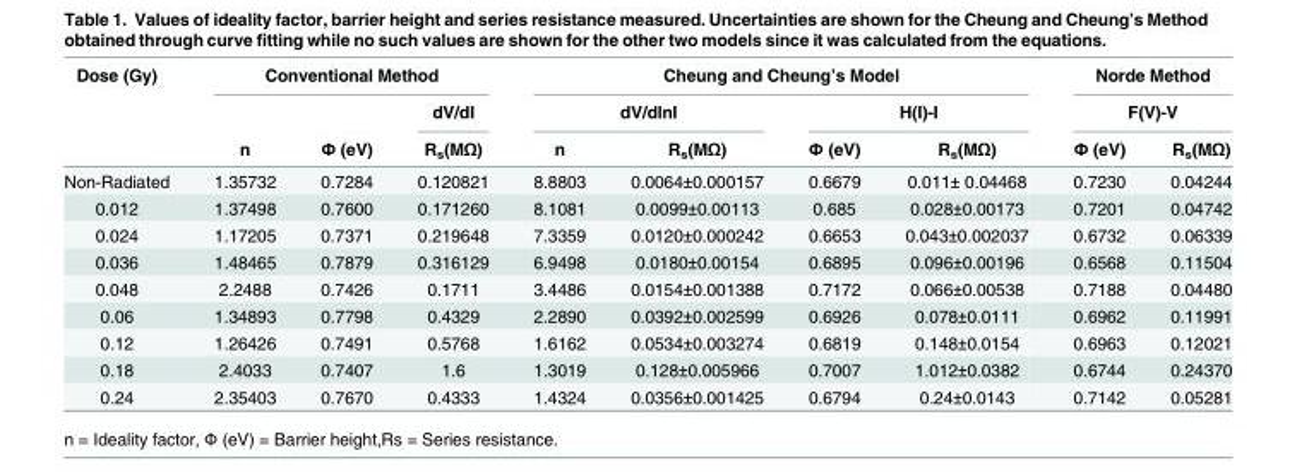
<table><thead><tr><td rowspan="3">Dose (Gy)</td><td colspan="3">Conventional Method</td><td colspan="4">Cheung and Cheung’s Model</td><td rowspan="2" colspan="2">Norde Method F(V)-V</td></tr><tr><td rowspan="2">n</td><td rowspan="2">Ф (eV)</td><td rowspan="2">dV/dI R<sub>s</sub>(MΩ)</td><td colspan="2">dV/dlnI</td><td colspan="2">H(I)-I</td></tr><tr><td>n</td><td>R<sub>s</sub>(MΩ)</td><td>Ф (eV)</td><td>R<sub>s</sub>(MΩ)</td><td>Ф (eV)</td><td>R<sub>s</sub>(MΩ)</td></tr></thead><tbody><tr><td>Non-Radiated</td><td>1.35732</td><td>0.7284</td><td>0.120821</td><td>8.8803</td><td>0.0064±0.000157</td><td>0.6679</td><td>0.011± 0.04468</td><td>0.7230</td><td>0.04244</td></tr><tr><td>0.012</td><td>1.37498</td><td>0.7600</td><td>0.171260</td><td>8.1081</td><td>0.0099±0.00113</td><td>0.685</td><td>0.028±0.00173</td><td>0.7201</td><td>0.04742</td></tr><tr><td>0.024</td><td>1.17205</td><td>0.7371</td><td>0.219648</td><td>7.3359</td><td>0.0120±0.000242</td><td>0.6653</td><td>0.043±0.002037</td><td>0.6732</td><td>0.06339</td></tr><tr><td>0.036</td><td>1.48465</td><td>0.7879</td><td>0.316129</td><td>6.9498</td><td>0.0180±0.00154</td><td>0.6895</td><td>0.096±0.00196</td><td>0.6568</td><td>0.11504</td></tr><tr><td>0.048</td><td>2.2488</td><td>0.7426</td><td>0.1711</td><td>3.4486</td><td>0.0154±0.001388</td><td>0.7172</td><td>0.066±0.00538</td><td>0.7188</td><td>0.04480</td></tr><tr><td>0.06</td><td>1.34893</td><td>0.7798</td><td>0.4329</td><td>2.2890</td><td>0.0392±0.002599</td><td>0.6926</td><td>0.078±0.0111</td><td>0.6962</td><td>0.11991</td></tr><tr><td>0.12</td><td>1.26426</td><td>0.7491</td><td>0.5768</td><td>1.6162</td><td>0.0534±0.003274</td><td>0.6819</td><td>0.148±0.0154</td><td>0.6963</td><td>0.12021</td></tr><tr><td>0.18</td><td>2.4033</td><td>0.7407</td><td>1.6</td><td>1.3019</td><td>0.128±0.005966</td><td>0.7007</td><td>1.012±0.0382</td><td>0.6744</td><td>0.24370</td></tr><tr><td>0.24</td><td>2.35403</td><td>0.7670</td><td>0.4333</td><td>1.4324</td><td>0.0356±0.001425</td><td>0.6794</td><td>0.24±0.0143</td><td>0.7142</td><td>0.05281</td></tr></tbody></table>